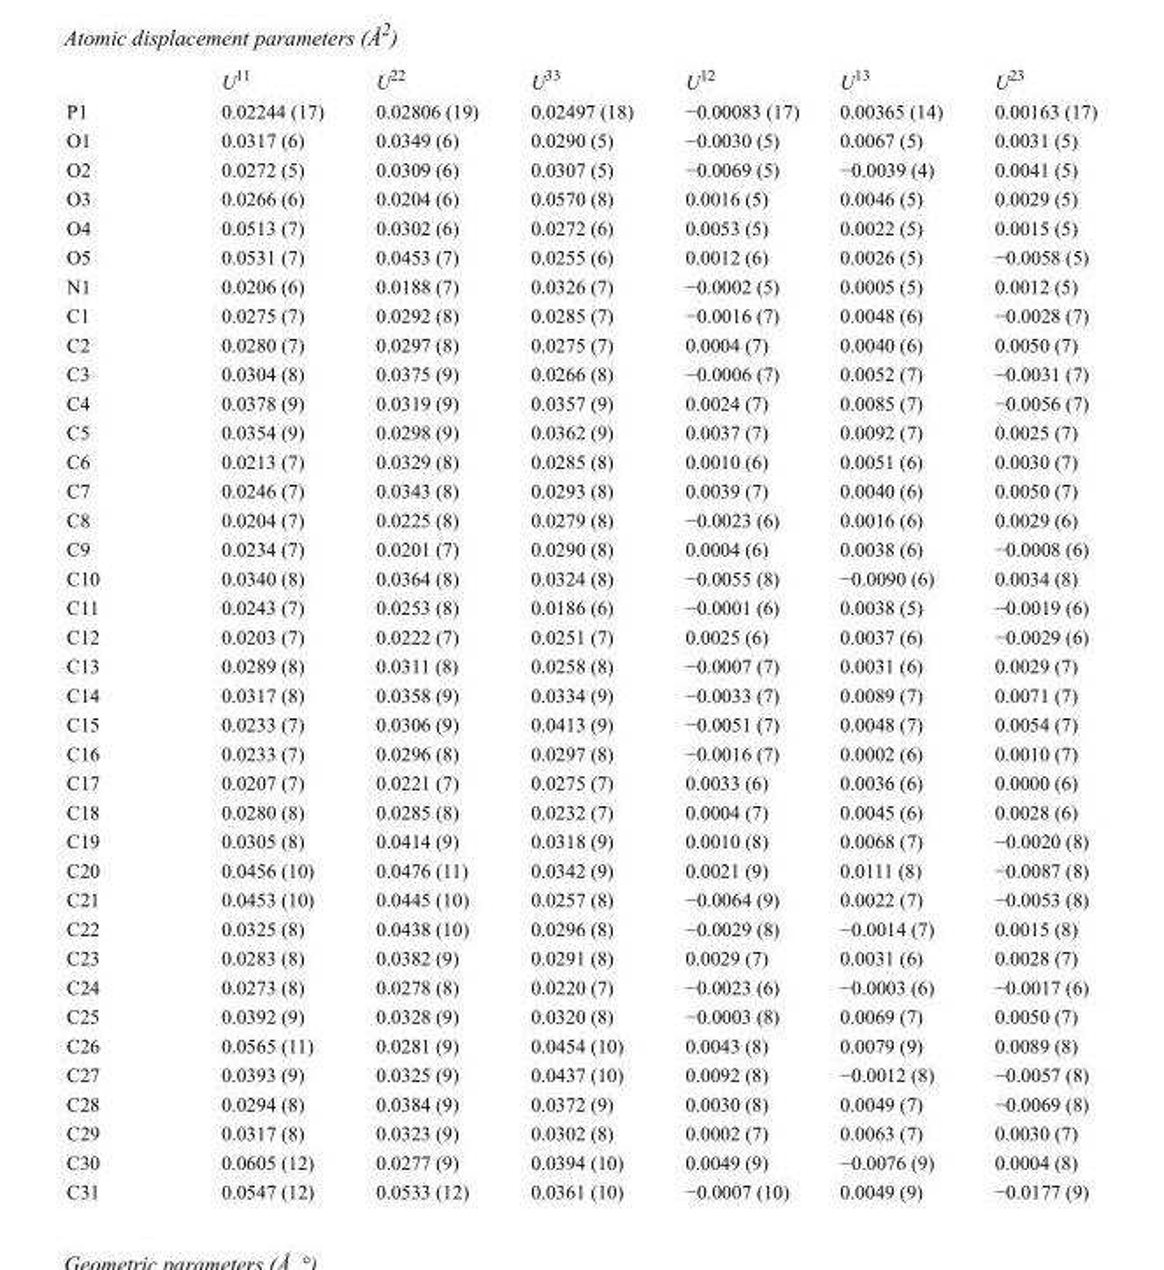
<table><thead><tr><td></td><td>U<sup>11</sup></td><td>U<sup>22</sup></td><td>U<sup>33</sup></td><td>U<sup>12</sup></td><td>U<sup>13</sup></td><td>U<sup>23</sup></td></tr></thead><tbody><tr><td>P1</td><td>0.02244 (17)</td><td>0.02806 (19)</td><td>0.02497 (18)</td><td>−0.00083 (17)</td><td>0.00365 (14)</td><td>0.00163 (17)</td></tr><tr><td>O1</td><td>0.0317 (6)</td><td>0.0349 (6)</td><td>0.0290 (5)</td><td>−0.0030 (5)</td><td>0.0067 (5)</td><td>0.0031 (5)</td></tr><tr><td>O2</td><td>0.0272 (5)</td><td>0.0309 (6)</td><td>0.0307 (5)</td><td>−0.0069 (5)</td><td>−0.0039 (4)</td><td>0.0041 (5)</td></tr><tr><td>O3</td><td>0.0266 (6)</td><td>0.0204 (6)</td><td>0.0570 (8)</td><td>0.0016 (5)</td><td>0.0046 (5)</td><td>0.0029 (5)</td></tr><tr><td>O4</td><td>0.0513 (7)</td><td>0.0302 (6)</td><td>0.0272 (6)</td><td>0.0053 (5)</td><td>0.0022 (5)</td><td>0.0015 (5)</td></tr><tr><td>O5</td><td>0.0531 (7)</td><td>0.0453 (7)</td><td>0.0255 (6)</td><td>0.0012 (6)</td><td>0.0026 (5)</td><td>−0.0058 (5)</td></tr><tr><td>N1</td><td>0.0206 (6)</td><td>0.0188 (7)</td><td>0.0326 (7)</td><td>−0.0002 (5)</td><td>0.0005 (5)</td><td>0.0012 (5)</td></tr><tr><td>C1</td><td>0.0275 (7)</td><td>0.0292 (8)</td><td>0.0285 (7)</td><td>−0.0016 (7)</td><td>0.0048 (6)</td><td>−0.0028 (7)</td></tr><tr><td>C2</td><td>0.0280 (7)</td><td>0.0297 (8)</td><td>0.0275 (7)</td><td>0.0004 (7)</td><td>0.0040 (6)</td><td>0.0050 (7)</td></tr><tr><td>C3</td><td>0.0304 (8)</td><td>0.0375 (9)</td><td>0.0266 (8)</td><td>−0.0006 (7)</td><td>0.0052 (7)</td><td>−0.0031 (7)</td></tr><tr><td>C4</td><td>0.0378 (9)</td><td>0.0319 (9)</td><td>0.0357 (9)</td><td>0.0024 (7)</td><td>0.0085 (7)</td><td>−0.0056 (7)</td></tr><tr><td>C5</td><td>0.0354 (9)</td><td>0.0298 (9)</td><td>0.0362 (9)</td><td>0.0037 (7)</td><td>0.0092 (7)</td><td>0.0025 (7)</td></tr><tr><td>C6</td><td>0.0213 (7)</td><td>0.0329 (8)</td><td>0.0285 (8)</td><td>0.0010 (6)</td><td>0.0051 (6)</td><td>0.0030 (7)</td></tr><tr><td>C7</td><td>0.0246 (7)</td><td>0.0343 (8)</td><td>0.0293 (8)</td><td>0.0039 (7)</td><td>0.0040 (6)</td><td>0.0050 (7)</td></tr><tr><td>C8</td><td>0.0204 (7)</td><td>0.0225 (8)</td><td>0.0279 (8)</td><td>−0.0023 (6)</td><td>0.0016 (6)</td><td>0.0029 (6)</td></tr><tr><td>C9</td><td>0.0234 (7)</td><td>0.0201 (7)</td><td>0.0290 (8)</td><td>0.0004 (6)</td><td>0.0038 (6)</td><td>−0.0008 (6)</td></tr><tr><td>C10</td><td>0.0340 (8)</td><td>0.0364 (8)</td><td>0.0324 (8)</td><td>−0.0055 (8)</td><td>−0.0090 (6)</td><td>0.0034 (8)</td></tr><tr><td>C11</td><td>0.0243 (7)</td><td>0.0253 (8)</td><td>0.0186 (6)</td><td>−0.0001 (6)</td><td>0.0038 (5)</td><td>−0.0019 (6)</td></tr><tr><td>C12</td><td>0.0203 (7)</td><td>0.0222 (7)</td><td>0.0251 (7)</td><td>0.0025 (6)</td><td>0.0037 (6)</td><td>−0.0029 (6)</td></tr><tr><td>C13</td><td>0.0289 (8)</td><td>0.0311 (8)</td><td>0.0258 (8)</td><td>−0.0007 (7)</td><td>0.0031 (6)</td><td>0.0029 (7)</td></tr><tr><td>C14</td><td>0.0317 (8)</td><td>0.0358 (9)</td><td>0.0334 (9)</td><td>−0.0033 (7)</td><td>0.0089 (7)</td><td>0.0071 (7)</td></tr><tr><td>C15</td><td>0.0233 (7)</td><td>0.0306 (9)</td><td>0.0413 (9)</td><td>−0.0051 (7)</td><td>0.0048 (7)</td><td>0.0054 (7)</td></tr><tr><td>C16</td><td>0.0233 (7)</td><td>0.0296 (8)</td><td>0.0297 (8)</td><td>−0.0016 (7)</td><td>0.0002 (6)</td><td>0.0010 (7)</td></tr><tr><td>C17</td><td>0.0207 (7)</td><td>0.0221 (7)</td><td>0.0275 (7)</td><td>0.0033 (6)</td><td>0.0036 (6)</td><td>0.0000 (6)</td></tr><tr><td>C18</td><td>0.0280 (8)</td><td>0.0285 (8)</td><td>0.0232 (7)</td><td>0.0004 (7)</td><td>0.0045 (6)</td><td>0.0028 (6)</td></tr><tr><td>C19</td><td>0.0305 (8)</td><td>0.0414 (9)</td><td>0.0318 (9)</td><td>0.0010 (8)</td><td>0.0068 (7)</td><td>−0.0020 (8)</td></tr><tr><td>C20</td><td>0.0456 (10)</td><td>0.0476 (11)</td><td>0.0342 (9)</td><td>0.0021 (9)</td><td>0.0111 (8)</td><td>−0.0087 (8)</td></tr><tr><td>C21</td><td>0.0453 (10)</td><td>0.0445 (10)</td><td>0.0257 (8)</td><td>−0.0064 (9)</td><td>0.0022 (7)</td><td>−0.0053 (8)</td></tr><tr><td>C22</td><td>0.0325 (8)</td><td>0.0438 (10)</td><td>0.0296 (8)</td><td>−0.0029 (8)</td><td>−0.0014 (7)</td><td>0.0015 (8)</td></tr><tr><td>C23</td><td>0.0283 (8)</td><td>0.0382 (9)</td><td>0.0291 (8)</td><td>0.0029 (7)</td><td>0.0031 (6)</td><td>0.0028 (7)</td></tr><tr><td>C24</td><td>0.0273 (8)</td><td>0.0278 (8)</td><td>0.0220 (7)</td><td>−0.0023 (6)</td><td>−0.0003 (6)</td><td>−0.0017 (6)</td></tr><tr><td>C25</td><td>0.0392 (9)</td><td>0.0328 (9)</td><td>0.0320 (8)</td><td>−0.0003 (8)</td><td>0.0069 (7)</td><td>0.0050 (7)</td></tr><tr><td>C26</td><td>0.0565 (11)</td><td>0.0281 (9)</td><td>0.0454 (10)</td><td>0.0043 (8)</td><td>0.0079 (9)</td><td>0.0089 (8)</td></tr><tr><td>C27</td><td>0.0393 (9)</td><td>0.0325 (9)</td><td>0.0437 (10)</td><td>0.0092 (8)</td><td>−0.0012 (8)</td><td>−0.0057 (8)</td></tr><tr><td>C28</td><td>0.0294 (8)</td><td>0.0384 (9)</td><td>0.0372 (9)</td><td>0.0030 (8)</td><td>0.0049 (7)</td><td>−0.0069 (8)</td></tr><tr><td>C29</td><td>0.0317 (8)</td><td>0.0323 (9)</td><td>0.0302 (8)</td><td>0.0002 (7)</td><td>0.0063 (7)</td><td>0.0030 (7)</td></tr><tr><td>C30</td><td>0.0605 (12)</td><td>0.0277 (9)</td><td>0.0394 (10)</td><td>0.0049 (9)</td><td>−0.0076 (9)</td><td>0.0004 (8)</td></tr><tr><td>C31</td><td>0.0547 (12)</td><td>0.0533 (12)</td><td>0.0361 (10)</td><td>−0.0007 (10)</td><td>0.0049 (9)</td><td>−0.0177 (9)</td></tr></tbody></table>